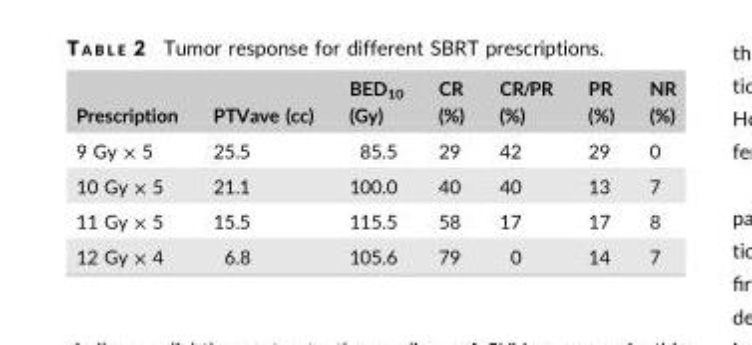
<table><thead><tr><td>Prescription</td><td>PTVave (cc)</td><td>BED<sub>10</sub> (Gy)</td><td>CR (%)</td><td>CR/PR (%)</td><td>PR (%)</td><td>NR (%)</td></tr></thead><tbody><tr><td>9 Gy × 5</td><td>25.5</td><td>85.5</td><td>29</td><td>42</td><td>29</td><td>0</td></tr><tr><td>10 Gy × 5</td><td>21.1</td><td>100.0</td><td>40</td><td>40</td><td>13</td><td>7</td></tr><tr><td>11 Gy × 5</td><td>15.5</td><td>115.5</td><td>58</td><td>17</td><td>17</td><td>8</td></tr><tr><td>12 Gy × 4</td><td>6.8</td><td>105.6</td><td>79</td><td>0</td><td>14</td><td>7</td></tr></tbody></table>